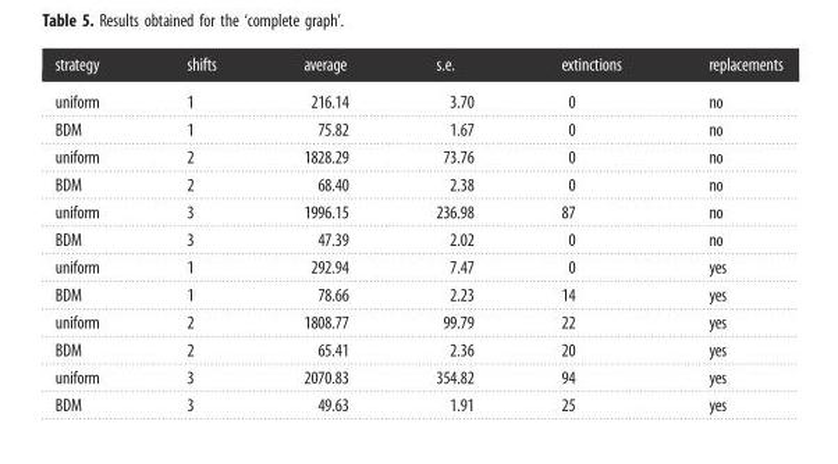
<table><thead><tr><td>strategy</td><td>shifts</td><td>average</td><td>s.e.</td><td>extinctions</td><td>replacements</td></tr></thead><tbody><tr><td>uniform</td><td>1</td><td>216.14</td><td>3.70</td><td>0</td><td>no</td></tr><tr><td>BDM</td><td>1</td><td>75.82</td><td>1.67</td><td>0</td><td>no</td></tr><tr><td>uniform</td><td>2</td><td>1828.29</td><td>73.76</td><td>0</td><td>no</td></tr><tr><td>BDM</td><td>2</td><td>68.40</td><td>2.38</td><td>0</td><td>no</td></tr><tr><td>uniform</td><td>3</td><td>1996.15</td><td>236.98</td><td>87</td><td>no</td></tr><tr><td>BDM</td><td>3</td><td>47.39</td><td>2.02</td><td>0</td><td>no</td></tr><tr><td>uniform</td><td>1</td><td>292.94</td><td>7.47</td><td>0</td><td>yes</td></tr><tr><td>BDM</td><td>1</td><td>78.66</td><td>2.23</td><td>14</td><td>yes</td></tr><tr><td>uniform</td><td>2</td><td>1808.77</td><td>99.79</td><td>22</td><td>yes</td></tr><tr><td>BDM</td><td>2</td><td>65.41</td><td>2.36</td><td>20</td><td>yes</td></tr><tr><td>uniform</td><td>3</td><td>2070.83</td><td>354.82</td><td>94</td><td>yes</td></tr><tr><td>BDM</td><td>3</td><td>49.63</td><td>1.91</td><td>25</td><td>yes</td></tr></tbody></table>